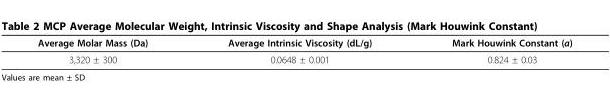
<table><thead><tr><td>Average Molar Mass (Da)</td><td>Average Intrinsic Viscosity (dL/g)</td><td>Mark Houwink Constant (a)</td></tr></thead><tbody><tr><td>3,320 ± 300</td><td>0.0648 ± 0.001</td><td>0.824 ± 0.03</td></tr></tbody></table>